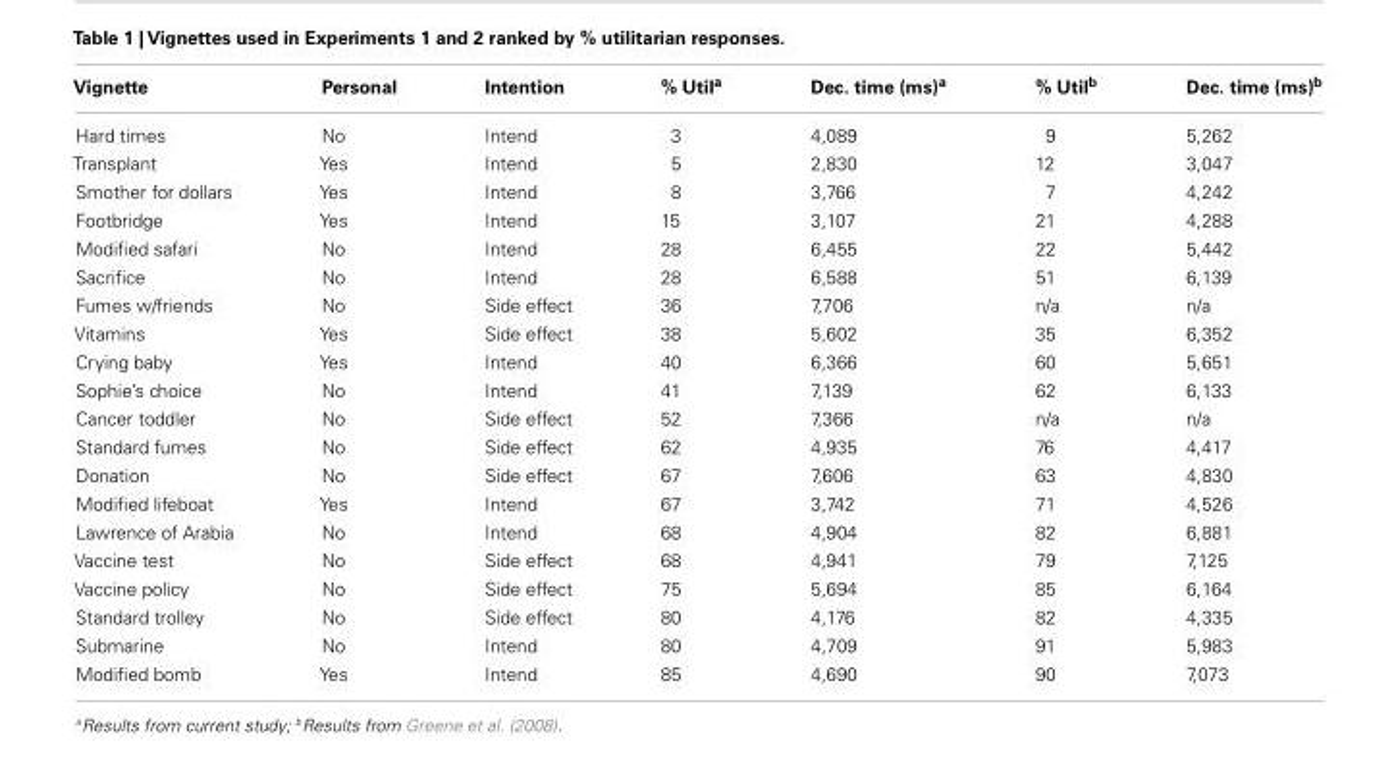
<table><thead><tr><td>Vignette</td><td>Personal</td><td>Intention</td><td>% Util<sup>a</sup></td><td>Dec. time (ms)<sup>a</sup></td><td>% Util<sup>b</sup></td><td>Dec. time (ms)<sup>b</sup></td></tr></thead><tbody><tr><td>Hard times</td><td>No</td><td>Intend</td><td>3</td><td>4,089</td><td>9</td><td>5,262</td></tr><tr><td>Transplant</td><td>Yes</td><td>Intend</td><td>5</td><td>2,830</td><td>12</td><td>3,047</td></tr><tr><td>Smother for dollars</td><td>Yes</td><td>Intend</td><td>8</td><td>3,766</td><td>7</td><td>4,242</td></tr><tr><td>Footbridge</td><td>Yes</td><td>Intend</td><td>15</td><td>3,107</td><td>21</td><td>4,288</td></tr><tr><td>Modified safari</td><td>No</td><td>Intend</td><td>28</td><td>6,455</td><td>22</td><td>5,442</td></tr><tr><td>Sacrifice</td><td>No</td><td>Intend</td><td>28</td><td>6,588</td><td>51</td><td>6,139</td></tr><tr><td>Fumes w/friends</td><td>No</td><td>Side effect</td><td>36</td><td>7,706</td><td>n/a</td><td>n/a</td></tr><tr><td>Vitamins</td><td>Yes</td><td>Side effect</td><td>38</td><td>5,602</td><td>35</td><td>6,352</td></tr><tr><td>Crying baby</td><td>Yes</td><td>Intend</td><td>40</td><td>6,366</td><td>60</td><td>5,651</td></tr><tr><td>Sophie’s choice</td><td>No</td><td>Intend</td><td>41</td><td>7,139</td><td>62</td><td>6,133</td></tr><tr><td>Cancer toddler</td><td>No</td><td>Side effect</td><td>52</td><td>7,366</td><td>n/a</td><td>n/a</td></tr><tr><td>Standard fumes</td><td>No</td><td>Side effect</td><td>62</td><td>4,935</td><td>76</td><td>4,417</td></tr><tr><td>Donation</td><td>No</td><td>Side effect</td><td>67</td><td>7,606</td><td>63</td><td>4,830</td></tr><tr><td>Modified lifeboat</td><td>Yes</td><td>Intend</td><td>67</td><td>3,742</td><td>71</td><td>4,526</td></tr><tr><td>Lawrence of Arabia</td><td>No</td><td>Intend</td><td>68</td><td>4,904</td><td>82</td><td>6,881</td></tr><tr><td>Vaccine test</td><td>No</td><td>Side effect</td><td>68</td><td>4,941</td><td>79</td><td>7,125</td></tr><tr><td>Vaccine policy</td><td>No</td><td>Side effect</td><td>75</td><td>5,694</td><td>85</td><td>6,164</td></tr><tr><td>Standard trolley</td><td>No</td><td>Side effect</td><td>80</td><td>4,176</td><td>82</td><td>4,335</td></tr><tr><td>Submarine</td><td>No</td><td>Intend</td><td>80</td><td>4,709</td><td>91</td><td>5,983</td></tr><tr><td>Modified bomb</td><td>Yes</td><td>Intend</td><td>85</td><td>4,690</td><td>90</td><td>7,073</td></tr></tbody></table>